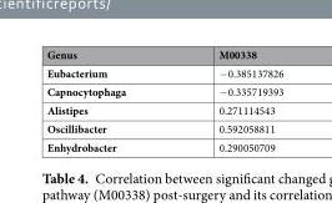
<table><thead><tr><td>Genus</td><td>M00338</td></tr></thead><tbody><tr><td>Eubacterium</td><td>−0.385137826</td></tr><tr><td>Capnocytophaga</td><td>−0.335719393</td></tr><tr><td>Alistipes</td><td>0.271114543</td></tr><tr><td>Oscillibacter</td><td>0.592058811</td></tr><tr><td>Enhydrobacter</td><td>0.290050709</td></tr></tbody></table>